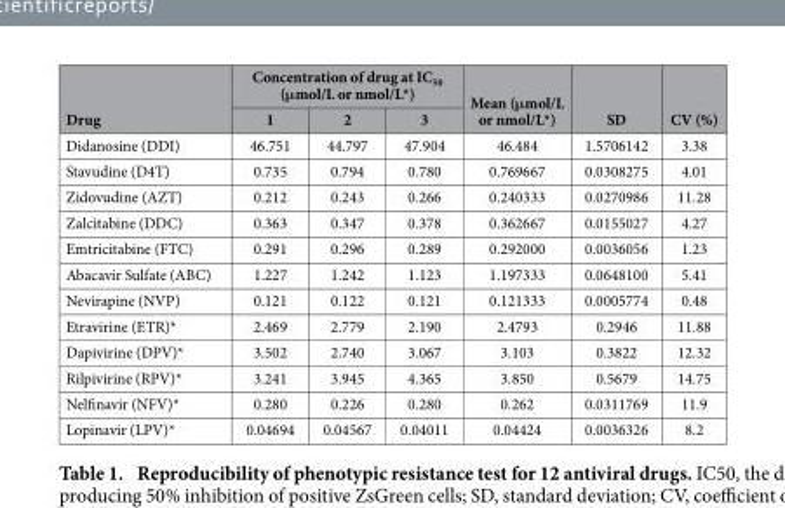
<table><thead><tr><td rowspan="2">Drug</td><td colspan="3">Concentration of drug at IC<sub>50</sub> (μmol/L or nmol/L*)</td><td rowspan="2">Mean (μmol/L or nmol/L*)</td><td rowspan="2">SD</td><td rowspan="2">CV (%)</td></tr><tr><td>1</td><td>2</td><td>3</td></tr></thead><tbody><tr><td>Didanosine (DDI)</td><td>46.751</td><td>44.797</td><td>47.904</td><td>46.484</td><td>1.5706142</td><td>3.38</td></tr><tr><td>Stavudine (D4T)</td><td>0.735</td><td>0.794</td><td>0.780</td><td>0.769667</td><td>0.0308275</td><td>4.01</td></tr><tr><td>Zidovudine (AZT)</td><td>0.212</td><td>0.243</td><td>0.266</td><td>0.240333</td><td>0.0270986</td><td>11.28</td></tr><tr><td>Zalcitabine (DDC)</td><td>0.363</td><td>0.347</td><td>0.378</td><td>0.362667</td><td>0.0155027</td><td>4.27</td></tr><tr><td>Emtricitabine (FTC)</td><td>0.291</td><td>0.296</td><td>0.289</td><td>0.292000</td><td>0.0036056</td><td>1.23</td></tr><tr><td>Abacavir Sulfate (ABC)</td><td>1.227</td><td>1.242</td><td>1.123</td><td>1.197333</td><td>0.0648100</td><td>5.41</td></tr><tr><td>Nevirapine (NVP)</td><td>0.121</td><td>0.122</td><td>0.121</td><td>0.121333</td><td>0.0005774</td><td>0.48</td></tr><tr><td>Etravirine (ETR)*</td><td>2.469</td><td>2.779</td><td>2.190</td><td>2.4793</td><td>0.2946</td><td>11.88</td></tr><tr><td>Dapivirine (DPV)*</td><td>3.502</td><td>2.740</td><td>3.067</td><td>3.103</td><td>0.3822</td><td>12.32</td></tr><tr><td>Rilpivirine (RPV)*</td><td>3.241</td><td>3.945</td><td>4.365</td><td>3.850</td><td>0.5679</td><td>14.75</td></tr><tr><td>Nelfinavir (NFV)*</td><td>0.280</td><td>0.226</td><td>0.280</td><td>0.262</td><td>0.0311769</td><td>11.9</td></tr><tr><td>Lopinavir (LPV)*</td><td>0.04694</td><td>0.04567</td><td>0.04011</td><td>0.04424</td><td>0.0036326</td><td>8.2</td></tr></tbody></table>